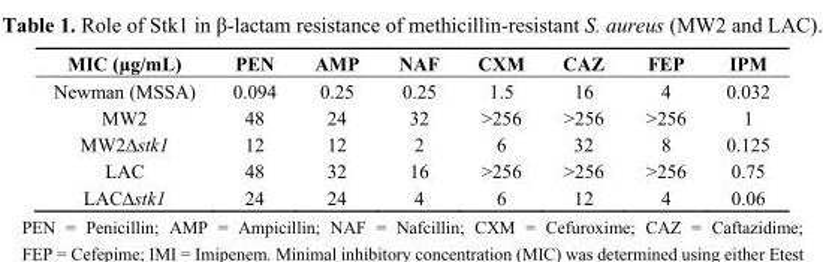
<table><thead><tr><td>MIC (µg/mL)</td><td>PEN</td><td>AMP</td><td>NAF</td><td>CXM</td><td>CAZ</td><td>FEP</td><td>IPM</td></tr></thead><tbody><tr><td>Newman (MSSA)</td><td>0.094</td><td>0.25</td><td>0.25</td><td>1.5</td><td>16</td><td>4</td><td>0.032</td></tr><tr><td>MW2</td><td>48</td><td>24</td><td>32</td><td>&gt;256</td><td>&gt;256</td><td>&gt;256</td><td>1</td></tr><tr><td>MW2∆stk1</td><td>12</td><td>12</td><td>2</td><td>6</td><td>32</td><td>8</td><td>0.125</td></tr><tr><td>LAC</td><td>48</td><td>32</td><td>16</td><td>&gt;256</td><td>&gt;256</td><td>&gt;256</td><td>0.75</td></tr><tr><td>LAC∆stk1</td><td>24</td><td>24</td><td>4</td><td>6</td><td>12</td><td>4</td><td>0.06</td></tr></tbody></table>